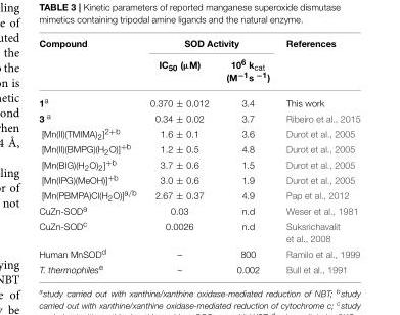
<table><thead><tr><td rowspan="2">Compound</td><td colspan="2">SOD Activity</td><td rowspan="2">References</td></tr><tr><td>IC<sub>50</sub> (µM)</td><td>10<sup>6</sup> k<sub>cat</sub> (M<sup>−1</sup>s <sup>−1</sup>)</td></tr></thead><tbody><tr><td>1<sup>a</sup></td><td>0.370 ± 0.012</td><td>3.4</td><td>This work</td></tr><tr><td>3 <sup>a</sup></td><td>0.34 ± 0.02</td><td>3.7</td><td>Ribeiro et al., 2015</td></tr><tr><td>[Mn(II)(TMIMA)<sub>2</sub>]<sup>2+b</sup></td><td>1.6 ± 0.1</td><td>3.6</td><td>Durot et al., 2005</td></tr><tr><td>[Mn(II)(BMPG)(H<sub>2</sub>O)]<sup>+b</sup></td><td>1.2 ± 0.5</td><td>4.8</td><td>Durot et al., 2005</td></tr><tr><td>[Mn(BIG)(H<sub>2</sub>O)<sub>2</sub>]<sup>+b</sup></td><td>3.7 ± 0.6</td><td>1.5</td><td>Durot et al., 2005</td></tr><tr><td>[Mn(IPG)(MeOH)]<sup>+b</sup></td><td>3.0 ± 0.6</td><td>1.9</td><td>Durot et al., 2005</td></tr><tr><td>[Mn(PBMPA)Cl(H<sub>2</sub>O)]<sup>a/b</sup></td><td>2.67 ± 0.37</td><td>4.9</td><td>Pap et al., 2012</td></tr><tr><td>CuZn-SOD<sup>a</sup></td><td>0.03</td><td>n.d</td><td>Weser et al., 1981</td></tr><tr><td>CuZn-SOD<sup>c</sup></td><td>0.0026</td><td>n.d</td><td>Suksrichavalit et al., 2008</td></tr><tr><td>Human MnSOD<sup>d</sup></td><td>–</td><td>800</td><td>Ramilo et al., 1999</td></tr><tr><td>T. thermophiles<sup>e</sup></td><td>–</td><td>0.002</td><td>Bull et al., 1991</td></tr></tbody></table>